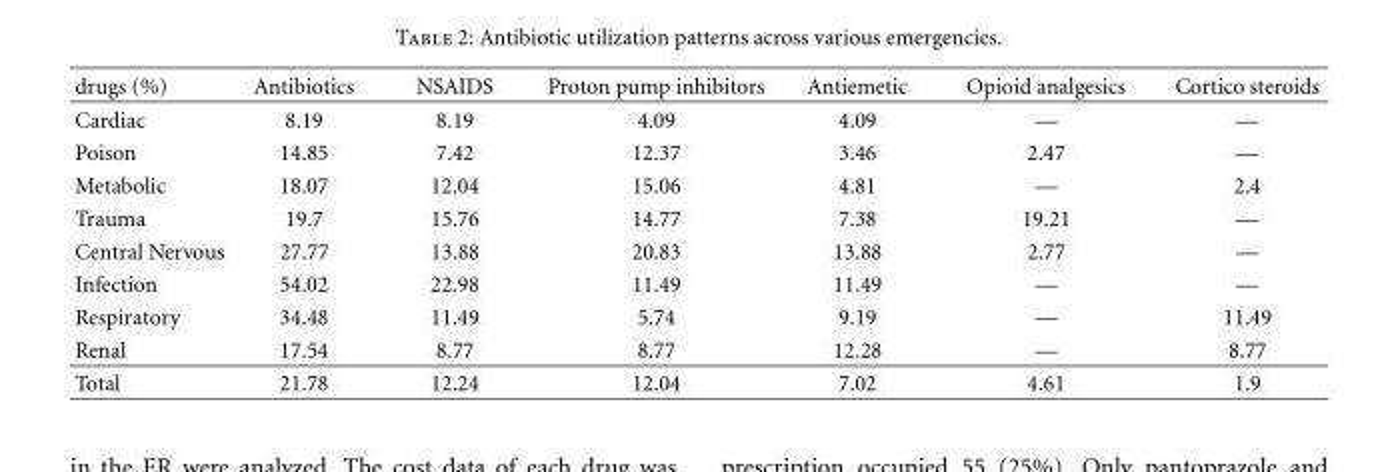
<table><thead><tr><td>drugs (%)</td><td>Antibiotics</td><td>NSAIDS</td><td>Proton pump inhibitors</td><td>Antiemetic</td><td>Opioid analgesics</td><td>Cortico steroids</td></tr></thead><tbody><tr><td>Cardiac</td><td>8.19</td><td>8.19</td><td>4.09</td><td>4.09</td><td>—</td><td>—</td></tr><tr><td>Poison</td><td>14.85</td><td>7.42</td><td>12.37</td><td>3.46</td><td>2.47</td><td>—</td></tr><tr><td>Metabolic</td><td>18.07</td><td>12.04</td><td>15.06</td><td>4.81</td><td>—</td><td>2.4</td></tr><tr><td>Trauma</td><td>19.7</td><td>15.76</td><td>14.77</td><td>7.38</td><td>19.21</td><td>—</td></tr><tr><td>Central Nervous</td><td>27.77</td><td>13.88</td><td>20.83</td><td>13.88</td><td>2.77</td><td>—</td></tr><tr><td>Infection</td><td>54.02</td><td>22.98</td><td>11.49</td><td>11.49</td><td>—</td><td>—</td></tr><tr><td>Respiratory</td><td>34.48</td><td>11.49</td><td>5.74</td><td>9.19</td><td>—</td><td>11.49</td></tr><tr><td>Renal</td><td>17.54</td><td>8.77</td><td>8.77</td><td>12.28</td><td>—</td><td>8.77</td></tr><tr><td>Total</td><td>21.78</td><td>12.24</td><td>12.04</td><td>7.02</td><td>4.61</td><td>1.9</td></tr></tbody></table>